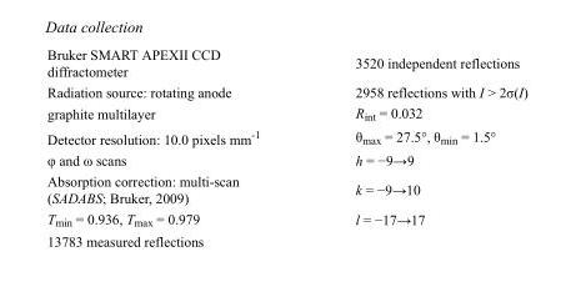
<table><tbody><tr><td>Bruker SMART APEXII CCD diffractometer</td><td>3520 independent reflections</td></tr><tr><td>Radiation source: rotating anode</td><td>2958 reflections with I &gt; 2σ(I)</td></tr><tr><td>graphite multilayer</td><td>R<sub>int</sub> = 0.032</td></tr><tr><td>Detector resolution: 10.0 pixels mm<sup>-1</sup></td><td>θ<sub>max</sub> = 27.5°, θ<sub>min</sub> = 1.5°</td></tr><tr><td>φ and ω scans</td><td>h = −9→9</td></tr><tr><td>Absorption correction: multi-scan (SADABS; Bruker, 2009)</td><td>k = −9→10</td></tr><tr><td>T<sub>min</sub> = 0.936, T<sub>max</sub> = 0.979</td><td>l = −17→17</td></tr><tr><td>13783 measured reflections</td><td></td></tr></tbody></table>